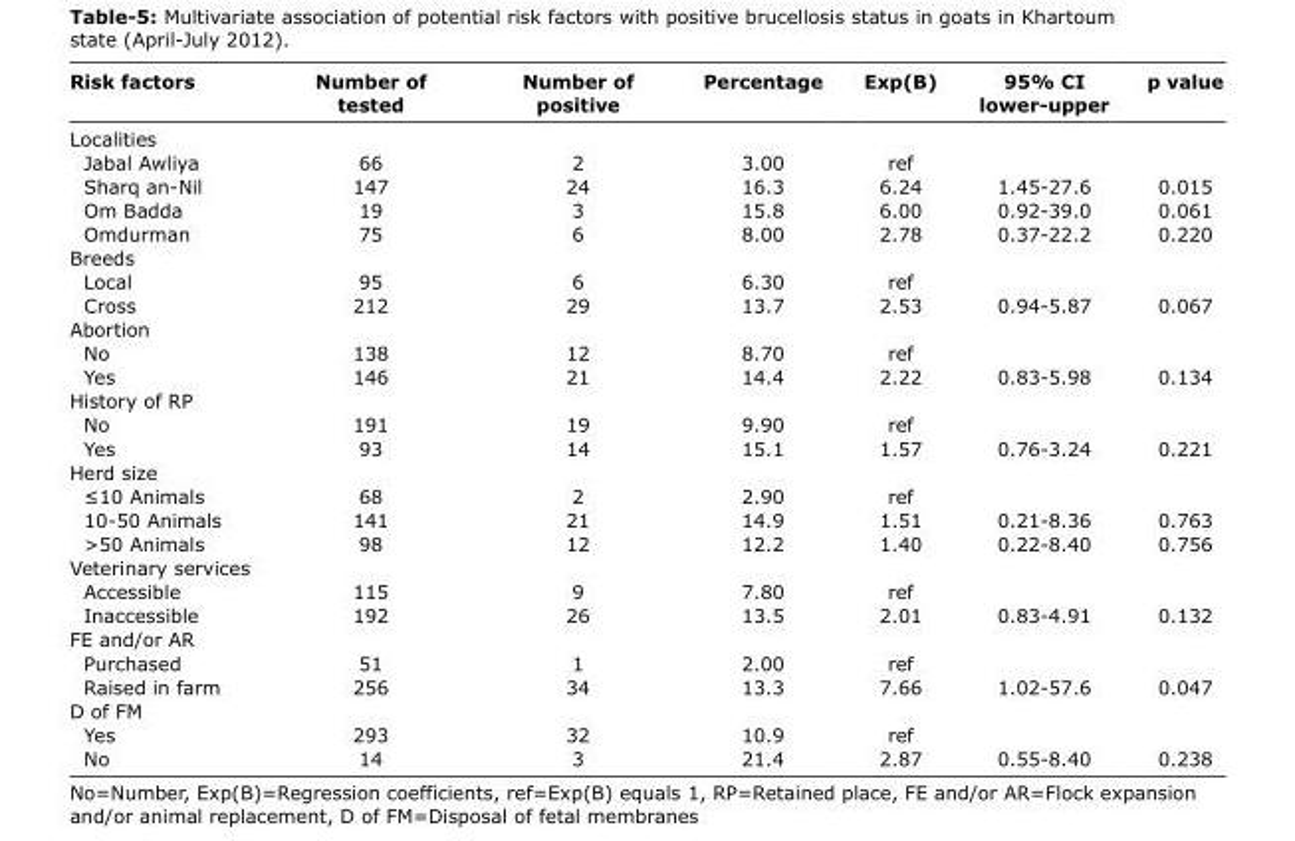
<table><thead><tr><td>Risk factors</td><td>Number of tested</td><td>Number of positive</td><td>Percentage</td><td>Exp(B)</td><td>95% CI lower-upper</td><td>p value</td></tr></thead><tbody><tr><td colspan="7">Localities</td></tr><tr><td>Jabal Awliya</td><td>66</td><td>2</td><td>3.00</td><td>ref</td><td></td><td></td></tr><tr><td>Sharq an-Nil</td><td>147</td><td>24</td><td>16.3</td><td>6.24</td><td>1.45-27.6</td><td>0.015</td></tr><tr><td>Om Badda</td><td>19</td><td>3</td><td>15.8</td><td>6.00</td><td>0.92-39.0</td><td>0.061</td></tr><tr><td>Omdurman</td><td>75</td><td>6</td><td>8.00</td><td>2.78</td><td>0.37-22.2</td><td>0.220</td></tr><tr><td colspan="7">Breeds</td></tr><tr><td>Local</td><td>95</td><td>6</td><td>6.30</td><td>ref</td><td></td><td></td></tr><tr><td>Cross</td><td>212</td><td>29</td><td>13.7</td><td>2.53</td><td>0.94-5.87</td><td>0.067</td></tr><tr><td colspan="7">Abortion</td></tr><tr><td>No</td><td>138</td><td>12</td><td>8.70</td><td>ref</td><td></td><td></td></tr><tr><td>Yes</td><td>146</td><td>21</td><td>14.4</td><td>2.22</td><td>0.83-5.98</td><td>0.134</td></tr><tr><td colspan="7">History of RP</td></tr><tr><td>No</td><td>191</td><td>19</td><td>9.90</td><td>ref</td><td></td><td></td></tr><tr><td>Yes</td><td>93</td><td>14</td><td>15.1</td><td>1.57</td><td>0.76-3.24</td><td>0.221</td></tr><tr><td colspan="7">Herd size</td></tr><tr><td>≤10 Animals</td><td>68</td><td>2</td><td>2.90</td><td>ref</td><td></td><td></td></tr><tr><td>10-50 Animals</td><td>141</td><td>21</td><td>14.9</td><td>1.51</td><td>0.21-8.36</td><td>0.763</td></tr><tr><td>&gt;50 Animals</td><td>98</td><td>12</td><td>12.2</td><td>1.40</td><td>0.22-8.40</td><td>0.756</td></tr><tr><td colspan="7">Veterinary services</td></tr><tr><td>Accessible</td><td>115</td><td>9</td><td>7.80</td><td>ref</td><td></td><td></td></tr><tr><td>Inaccessible</td><td>192</td><td>26</td><td>13.5</td><td>2.01</td><td>0.83-4.91</td><td>0.132</td></tr><tr><td colspan="7">FE and/or AR</td></tr><tr><td>Purchased</td><td>51</td><td>1</td><td>2.00</td><td>ref</td><td></td><td></td></tr><tr><td>Raised in farm</td><td>256</td><td>34</td><td>13.3</td><td>7.66</td><td>1.02-57.6</td><td>0.047</td></tr><tr><td colspan="7">D of FM</td></tr><tr><td>Yes</td><td>293</td><td>32</td><td>10.9</td><td>ref</td><td></td><td></td></tr><tr><td>No</td><td>14</td><td>3</td><td>21.4</td><td>2.87</td><td>0.55-8.40</td><td>0.238</td></tr></tbody></table>